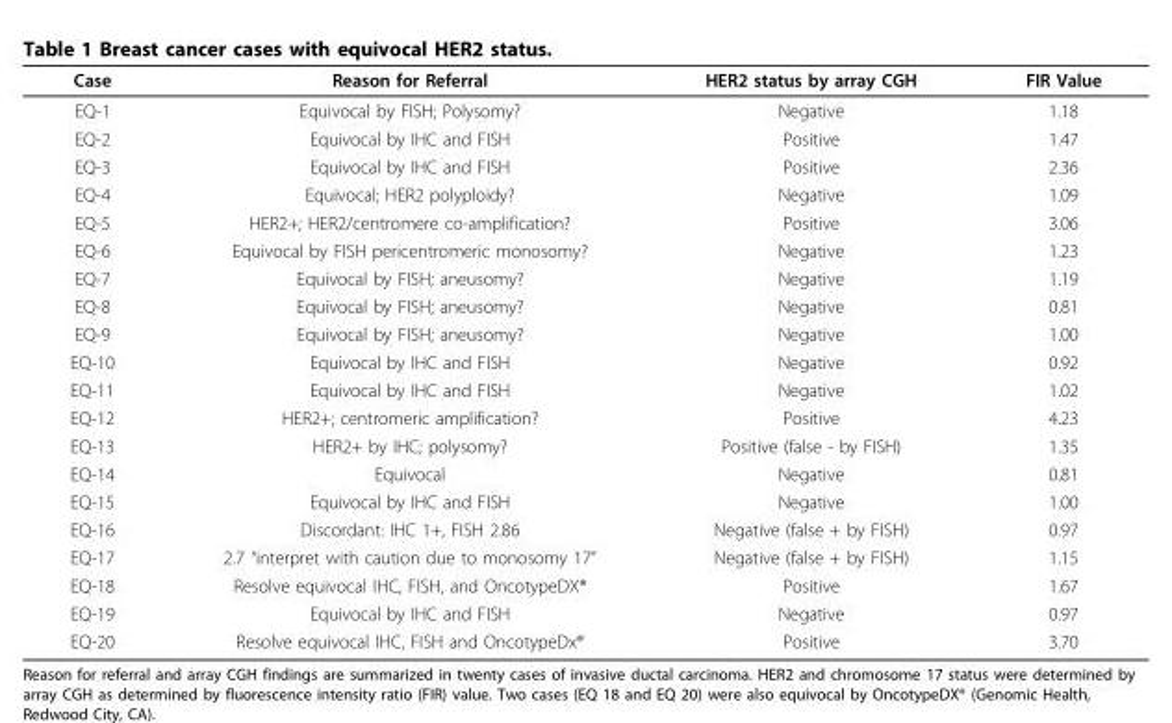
<table><thead><tr><td>Case</td><td>Reason for Referral</td><td>HER2 status by array CGH</td><td>FIR Value</td></tr></thead><tbody><tr><td>EQ-1</td><td>Equivocal by FISH; Polysomy?</td><td>Negative</td><td>1.18</td></tr><tr><td>EQ-2</td><td>Equivocal by IHC and FISH</td><td>Positive</td><td>1.47</td></tr><tr><td>EQ-3</td><td>Equivocal by IHC and FISH</td><td>Positive</td><td>2.36</td></tr><tr><td>EQ-4</td><td>Equivocal; HER2 polyploidy?</td><td>Negative</td><td>1.09</td></tr><tr><td>EQ-5</td><td>HER2+; HER2/centromere co-amplification?</td><td>Positive</td><td>3.06</td></tr><tr><td>EQ-6</td><td>Equivocal by FISH pericentromeric monosomy?</td><td>Negative</td><td>1.23</td></tr><tr><td>EQ-7</td><td>Equivocal by FISH; aneusomy?</td><td>Negative</td><td>1.19</td></tr><tr><td>EQ-8</td><td>Equivocal by FISH; aneusomy?</td><td>Negative</td><td>0.81</td></tr><tr><td>EQ-9</td><td>Equivocal by FISH; aneusomy?</td><td>Negative</td><td>1.00</td></tr><tr><td>EQ-10</td><td>Equivocal by IHC and FISH</td><td>Negative</td><td>0.92</td></tr><tr><td>EQ-11</td><td>Equivocal by IHC and FISH</td><td>Negative</td><td>1.02</td></tr><tr><td>EQ-12</td><td>HER2+; centromeric amplification?</td><td>Positive</td><td>4.23</td></tr><tr><td>EQ-13</td><td>HER2+ by IHC; polysomy?</td><td>Positive (false - by FISH)</td><td>1.35</td></tr><tr><td>EQ-14</td><td>Equivocal</td><td>Negative</td><td>0.81</td></tr><tr><td>EQ-15</td><td>Equivocal by IHC and FISH</td><td>Negative</td><td>1.00</td></tr><tr><td>EQ-16</td><td>Discordant: IHC 1+, FISH 2.86</td><td>Negative (false + by FISH)</td><td>0.97</td></tr><tr><td>EQ-17</td><td>2.7 “interpret with caution due to monosomy 17”</td><td>Negative (false + by FISH)</td><td>1.15</td></tr><tr><td>EQ-18</td><td>Resolve equivocal IHC, FISH, and OncotypeDX<sup>®</sup></td><td>Positive</td><td>1.67</td></tr><tr><td>EQ-19</td><td>Equivocal by IHC and FISH</td><td>Negative</td><td>0.97</td></tr><tr><td>EQ-20</td><td>Resolve equivocal IHC, FISH and OncotypeDx<sup>®</sup></td><td>Positive</td><td>3.70</td></tr></tbody></table>